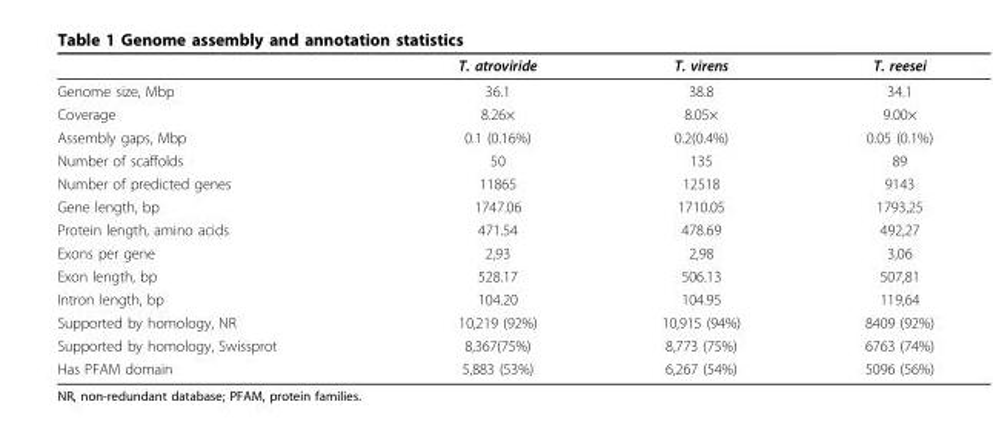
<table><thead><tr><td></td><td>T. atroviride</td><td>T. virens</td><td>T. reesei</td></tr></thead><tbody><tr><td>Genome size, Mbp</td><td>36.1</td><td>38.8</td><td>34.1</td></tr><tr><td>Coverage</td><td>8.26×</td><td>8.05×</td><td>9.00×</td></tr><tr><td>Assembly gaps, Mbp</td><td>0.1 (0.16%)</td><td>0.2(0.4%)</td><td>0.05 (0.1%)</td></tr><tr><td>Number of scaffolds</td><td>50</td><td>135</td><td>89</td></tr><tr><td>Number of predicted genes</td><td>11865</td><td>12518</td><td>9143</td></tr><tr><td>Gene length, bp</td><td>1747.06</td><td>1710.05</td><td>1793,25</td></tr><tr><td>Protein length, amino acids</td><td>471.54</td><td>478.69</td><td>492,27</td></tr><tr><td>Exons per gene</td><td>2,93</td><td>2,98</td><td>3,06</td></tr><tr><td>Exon length, bp</td><td>528.17</td><td>506.13</td><td>507,81</td></tr><tr><td>Intron length, bp</td><td>104.20</td><td>104.95</td><td>119,64</td></tr><tr><td>Supported by homology, NR</td><td>10,219 (92%)</td><td>10,915 (94%)</td><td>8409 (92%)</td></tr><tr><td>Supported by homology, Swissprot</td><td>8,367(75%)</td><td>8,773 (75%)</td><td>6763 (74%)</td></tr><tr><td>Has PFAM domain</td><td>5,883 (53%)</td><td>6,267 (54%)</td><td>5096 (56%)</td></tr></tbody></table>